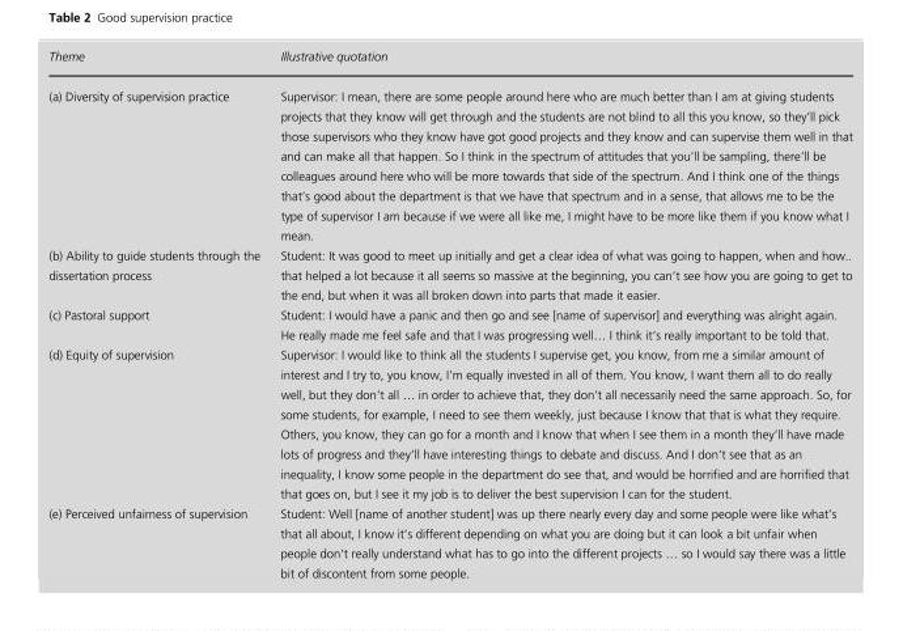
<table><thead><tr><td>Theme</td><td>Illustrative quotation</td></tr></thead><tbody><tr><td>(a) Diversity of supervision practice</td><td>Supervisor: I mean, there are some people around here who are much better than I am at giving students projects that they know will get through and the students are not blind to all this you know, so they’ll pick those supervisors who they know have got good projects and they know and can supervise them well in that and can make all that happen. So I think in the spectrum of attitudes that you’ll be sampling, there’ll be colleagues around here who will be more towards that side of the spectrum. And I think one of the things that’s good about the department is that we have that spectrum and in a sense, that allows me to be the type of supervisor I am because if we were all like me, I might have to be more like them if you know what I mean.</td></tr><tr><td>(b) Ability to guide students through the dissertation process</td><td>Student: It was good to meet up initially and get a clear idea of what was going to happen, when and how.. that helped a lot because it all seems so massive at the beginning, you can’t see how you are going to get to the end, but when it was all broken down into parts that made it easier.</td></tr><tr><td>(c) Pastoral support</td><td>Student: I would have a panic and then go and see [name of supervisor] and everything was alright again. He really made me feel safe and that I was progressing well… I think it’s really important to be told that.</td></tr><tr><td>(d) Equity of supervision</td><td>Supervisor: I would like to think all the students I supervise get, you know, from me a similar amount of interest and I try to, you know, I’m equally invested in all of them. You know, I want them all to do really well, but they don’t all … in order to achieve that, they don’t all necessarily need the same approach. So, for some students, for example, I need to see them weekly, just because I know that that is what they require. Others, you know, they can go for a month and I know that when I see them in a month they’ll have made lots of progress and they’ll have interesting things to debate and discuss. And I don’t see that as an inequality, I know some people in the department do see that, and would be horrified and are horrified that that goes on, but I see it my job is to deliver the best supervision I can for the student.</td></tr><tr><td>(e) Perceived unfairness of supervision</td><td>Student: Well [name of another student] was up there nearly every day and some people were like what’s that all about, I know it’s different depending on what you are doing but it can look a bit unfair when people don’t really understand what has to go into the different projects … so I would say there was a little bit of discontent from some people.</td></tr></tbody></table>